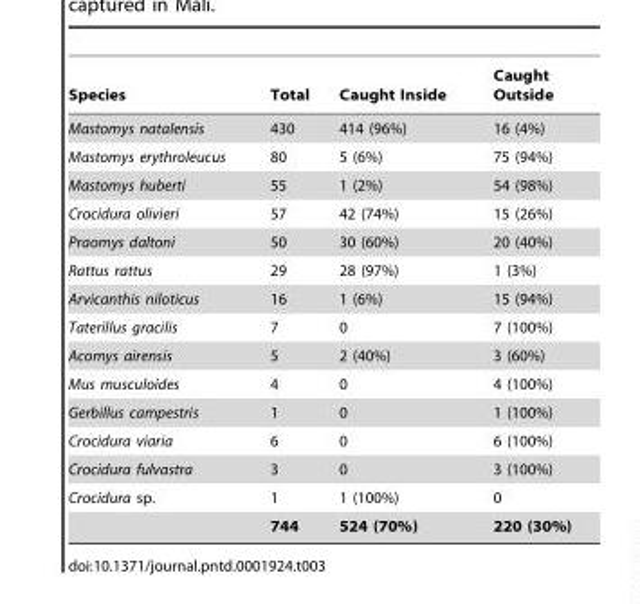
<table><thead><tr><td>Species</td><td>Total</td><td>Caught Inside</td><td>Caught Outside</td></tr></thead><tbody><tr><td>Mastomys natalensis</td><td>430</td><td>414 (96%)</td><td>16 (4%)</td></tr><tr><td>Mastomys erythroleucus</td><td>80</td><td>5 (6%)</td><td>75 (94%)</td></tr><tr><td>Mastomys huberti</td><td>55</td><td>1 (2%)</td><td>54 (98%)</td></tr><tr><td>Crocidura olivieri</td><td>57</td><td>42 (74%)</td><td>15 (26%)</td></tr><tr><td>Praomys daltoni</td><td>50</td><td>30 (60%)</td><td>20 (40%)</td></tr><tr><td>Rattus rattus</td><td>29</td><td>28 (97%)</td><td>1 (3%)</td></tr><tr><td>Arvicanthis niloticus</td><td>16</td><td>1 (6%)</td><td>15 (94%)</td></tr><tr><td>Taterillus gracilis</td><td>7</td><td>0</td><td>7 (100%)</td></tr><tr><td>Acomys airensis</td><td>5</td><td>2 (40%)</td><td>3 (60%)</td></tr><tr><td>Mus musculoides</td><td>4</td><td>0</td><td>4 (100%)</td></tr><tr><td>Gerbillus campestris</td><td>1</td><td>0</td><td>1 (100%)</td></tr><tr><td>Crocidura viaria</td><td>6</td><td>0</td><td>6 (100%)</td></tr><tr><td>Crocidura fulvastra</td><td>3</td><td>0</td><td>3 (100%)</td></tr><tr><td rowspan="2">Crocidura sp.</td><td>1</td><td>1 (100%)</td><td>0</td></tr><tr><td>744</td><td>524 (70%)</td><td>220 (30%)</td></tr></tbody></table>